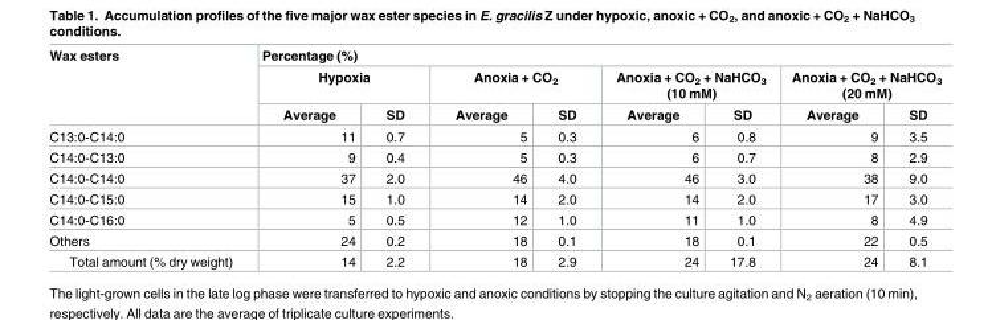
<table><thead><tr><td rowspan="3">Wax esters</td><td colspan="8">Percentage (%)</td></tr><tr><td colspan="2">Hypoxia</td><td colspan="2">Anoxia + CO<sub>2</sub></td><td colspan="2">Anoxia + CO<sub>2</sub> + NaHCO<sub>3</sub> (10 mM)</td><td colspan="2">Anoxia + CO<sub>2</sub> + NaHCO<sub>3</sub> (20 mM)</td></tr><tr><td>Average</td><td>SD</td><td>Average</td><td>SD</td><td>Average</td><td>SD</td><td>Average</td><td>SD</td></tr></thead><tbody><tr><td>C13:0-C14:0</td><td>11</td><td>0.7</td><td>5</td><td>0.3</td><td>6</td><td>0.8</td><td>9</td><td>3.5</td></tr><tr><td>C14:0-C13:0</td><td>9</td><td>0.4</td><td>5</td><td>0.3</td><td>6</td><td>0.7</td><td>8</td><td>2.9</td></tr><tr><td>C14:0-C14:0</td><td>37</td><td>2.0</td><td>46</td><td>4.0</td><td>46</td><td>3.0</td><td>38</td><td>9.0</td></tr><tr><td>C14:0-C15:0</td><td>15</td><td>1.0</td><td>14</td><td>2.0</td><td>14</td><td>2.0</td><td>17</td><td>3.0</td></tr><tr><td>C14:0-C16:0</td><td>5</td><td>0.5</td><td>12</td><td>1.0</td><td>11</td><td>1.0</td><td>8</td><td>4.9</td></tr><tr><td>Others</td><td>24</td><td>0.2</td><td>18</td><td>0.1</td><td>18</td><td>0.1</td><td>22</td><td>0.5</td></tr><tr><td>Total amount (% dry weight)</td><td>14</td><td>2.2</td><td>18</td><td>2.9</td><td>24</td><td>17.8</td><td>24</td><td>8.1</td></tr></tbody></table>